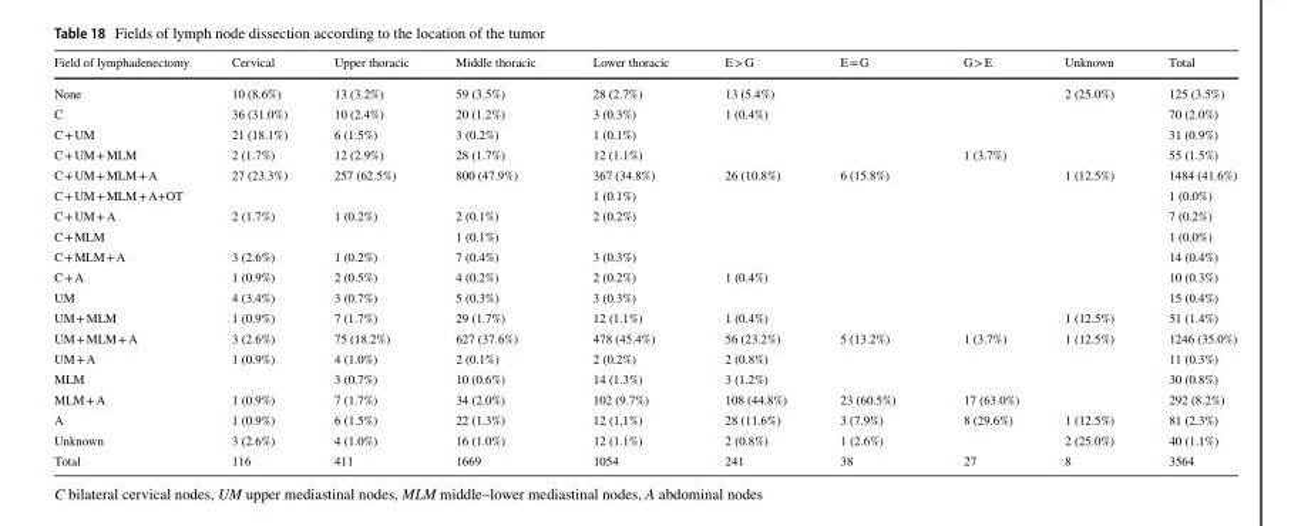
<table><thead><tr><td>Field of lymphadenectomy</td><td>Cervical</td><td>Upper thoracic</td><td>Middle thoracic</td><td>Lower thoracic</td><td>E &gt; G</td><td>E = G</td><td>G &gt; E</td><td>Unknown</td><td>Total</td></tr></thead><tbody><tr><td>None</td><td>10 (8.6%)</td><td>13 (3.2%)</td><td>59 (3.5%)</td><td>28 (2.7%)</td><td>13 (5.4%)</td><td></td><td></td><td>2 (25.0%)</td><td>125 (3.5%)</td></tr><tr><td>C</td><td>36 (31.0%)</td><td>10 (2.4%)</td><td>20 (1.2%)</td><td>3 (0.3%)</td><td>1 (0.4%)</td><td></td><td></td><td></td><td>70 (2.0%)</td></tr><tr><td>C + UM</td><td>21 (18.1%)</td><td>6 (1.5%)</td><td>3 (0.2%)</td><td>1 (0.1%)</td><td></td><td></td><td></td><td></td><td>31 (0.9%)</td></tr><tr><td>C + UM + MLM</td><td>2 (1.7%)</td><td>12 (2.9%)</td><td>28 (1.7%)</td><td>12 (1.1%)</td><td></td><td></td><td>1 (3.7%)</td><td></td><td>55 (1.5%)</td></tr><tr><td>C + UM + MLM + A</td><td>27 (23.3%)</td><td>257 (62.5%)</td><td>800 (47.9%)</td><td>367 (34.8%)</td><td>26 (10.8%)</td><td>6 (15.8%)</td><td></td><td>1 (12.5%)</td><td>1484 (41.6%)</td></tr><tr><td>C + UM + MLM + A+OT</td><td></td><td></td><td></td><td>1 (0.1%)</td><td></td><td></td><td></td><td></td><td>1 (0.0%)</td></tr><tr><td>C + UM + A</td><td>2 (1.7%)</td><td>1 (0.2%)</td><td>2 (0.1%)</td><td>2 (0.2%)</td><td></td><td></td><td></td><td></td><td>7 (0.2%)</td></tr><tr><td>C + MLM</td><td></td><td></td><td>1 (0.1%)</td><td></td><td></td><td></td><td></td><td></td><td>1 (0.0%)</td></tr><tr><td>C + MLM + A</td><td>3 (2.6%)</td><td>1 (0.2%)</td><td>7 (0.4%)</td><td>3 (0.3%)</td><td></td><td></td><td></td><td></td><td>14 (0.4%)</td></tr><tr><td>C + A</td><td>1 (0.9%)</td><td>2 (0.5%)</td><td>4 (0.2%)</td><td>2 (0.2%)</td><td>1 (0.4%)</td><td></td><td></td><td></td><td>10 (0.3%)</td></tr><tr><td>UM</td><td>4 (3.4%)</td><td>3 (0.7%)</td><td>5 (0.3%)</td><td>3 (0.3%)</td><td></td><td></td><td></td><td></td><td>15 (0.4%)</td></tr><tr><td>UM + MLM</td><td>1 (0.9%)</td><td>7 (1.7%)</td><td>29 (1.7%)</td><td>12 (1.1%)</td><td>1 (0.4%)</td><td></td><td></td><td>1 (12.5%)</td><td>51 (1.4%)</td></tr><tr><td>UM + MLM + A</td><td>3 (2.6%)</td><td>75 (18.2%)</td><td>627 (37.6%)</td><td>478 (45.4%)</td><td>56 (23.2%)</td><td>5 (13.2%)</td><td>1 (3.7%)</td><td>1 (12.5%)</td><td>1246 (35.0%)</td></tr><tr><td>UM + A</td><td>1 (0.9%)</td><td>4 (1.0%)</td><td>2 (0.1%)</td><td>2 (0.2%)</td><td>2 (0.8%)</td><td></td><td></td><td></td><td>11 (0.3%)</td></tr><tr><td>MLM</td><td></td><td>3 (0.7%)</td><td>10 (0.6%)</td><td>14 (1.3%)</td><td>3 (1.2%)</td><td></td><td></td><td></td><td>30 (0.8%)</td></tr><tr><td>MLM + A</td><td>1 (0.9%)</td><td>7 (1.7%)</td><td>34 (2.0%)</td><td>102 (9.7%)</td><td>108 (44.8%)</td><td>23 (60.5%)</td><td>17 (63.0%)</td><td></td><td>292 (8.2%)</td></tr><tr><td>A</td><td>1 (0.9%)</td><td>6 (1.5%)</td><td>22 (1.3%)</td><td>12 (1.1%)</td><td>28 (11.6%)</td><td>3 (7.9%)</td><td>8 (29.6%)</td><td>1 (12.5%)</td><td>81 (2.3%)</td></tr><tr><td>Unknown</td><td>3 (2.6%)</td><td>4 (1.0%)</td><td>16 (1.0%)</td><td>12 (1.1%)</td><td>2 (0.8%)</td><td>1 (2.6%)</td><td></td><td>2 (25.0%)</td><td>40 (1.1%)</td></tr><tr><td>Total</td><td>116</td><td>411</td><td>1669</td><td>1054</td><td>241</td><td>38</td><td>27</td><td>8</td><td>3564</td></tr></tbody></table>